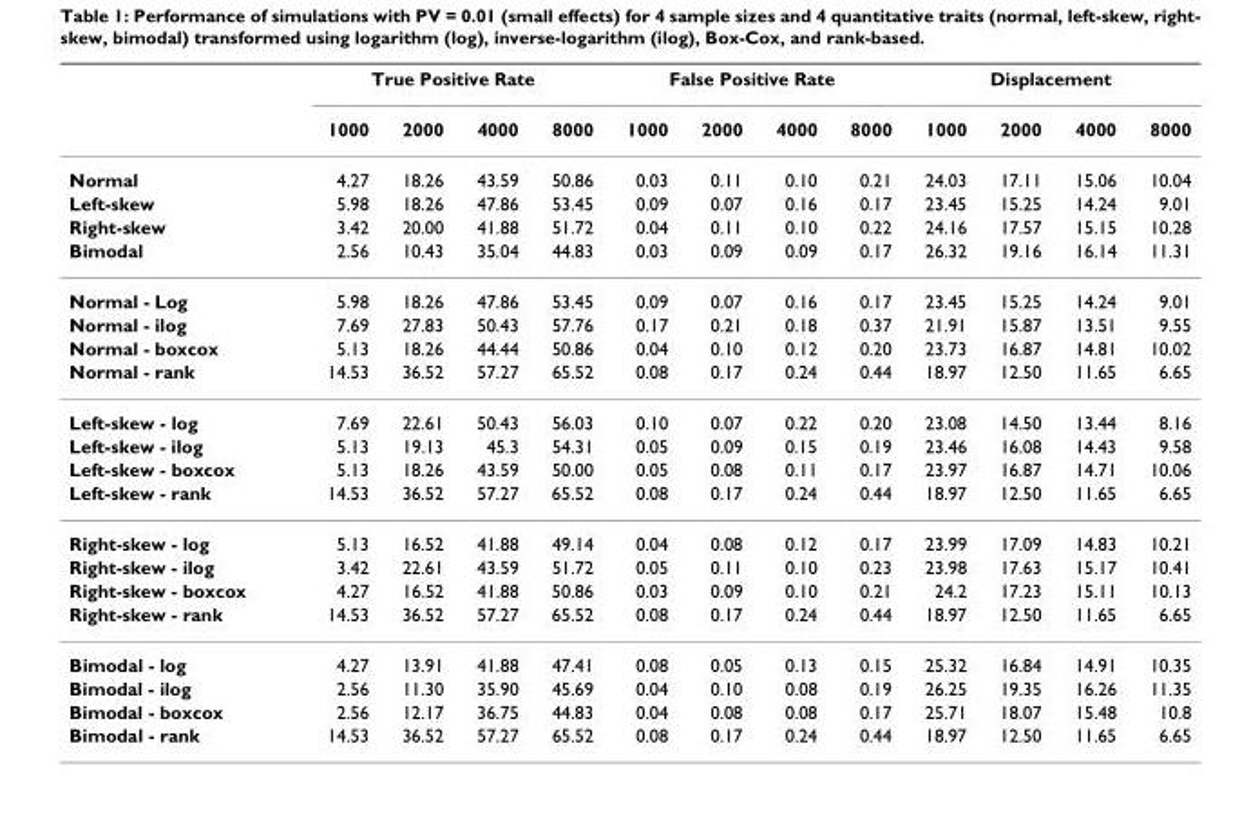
<table><thead><tr><td rowspan="2"></td><td colspan="4">True Positive Rate</td><td colspan="4">False Positive Rate</td><td colspan="4">Displacement</td></tr><tr><td>1000</td><td>2000</td><td>4000</td><td>8000</td><td>1000</td><td>2000</td><td>4000</td><td>8000</td><td>1000</td><td>2000</td><td>4000</td><td>8000</td></tr></thead><tbody><tr><td>Normal</td><td>4.27</td><td>18.26</td><td>43.59</td><td>50.86</td><td>0.03</td><td>0.11</td><td>0.10</td><td>0.21</td><td>24.03</td><td>17.11</td><td>15.06</td><td>10.04</td></tr><tr><td>Left-skew</td><td>5.98</td><td>18.26</td><td>47.86</td><td>53.45</td><td>0.09</td><td>0.07</td><td>0.16</td><td>0.17</td><td>23.45</td><td>15.25</td><td>14.24</td><td>9.01</td></tr><tr><td>Right-skew</td><td>3.42</td><td>20.00</td><td>41.88</td><td>51.72</td><td>0.04</td><td>0.11</td><td>0.10</td><td>0.22</td><td>24.16</td><td>17.57</td><td>15.15</td><td>10.28</td></tr><tr><td>Bimodal</td><td>2.56</td><td>10.43</td><td>35.04</td><td>44.83</td><td>0.03</td><td>0.09</td><td>0.09</td><td>0.17</td><td>26.32</td><td>19.16</td><td>16.14</td><td>11.31</td></tr><tr><td>Normal - Log</td><td>5.98</td><td>18.26</td><td>47.86</td><td>53.45</td><td>0.09</td><td>0.07</td><td>0.16</td><td>0.17</td><td>23.45</td><td>15.25</td><td>14.24</td><td>9.01</td></tr><tr><td>Normal - ilog</td><td>7.69</td><td>27.83</td><td>50.43</td><td>57.76</td><td>0.17</td><td>0.21</td><td>0.18</td><td>0.37</td><td>21.91</td><td>15.87</td><td>13.51</td><td>9.55</td></tr><tr><td>Normal - boxcox</td><td>5.13</td><td>18.26</td><td>44.44</td><td>50.86</td><td>0.04</td><td>0.10</td><td>0.12</td><td>0.20</td><td>23.73</td><td>16.87</td><td>14.81</td><td>10.02</td></tr><tr><td>Normal - rank</td><td>14.53</td><td>36.52</td><td>57.27</td><td>65.52</td><td>0.08</td><td>0.17</td><td>0.24</td><td>0.44</td><td>18.97</td><td>12.50</td><td>11.65</td><td>6.65</td></tr><tr><td>Left-skew - log</td><td>7.69</td><td>22.61</td><td>50.43</td><td>56.03</td><td>0.10</td><td>0.07</td><td>0.22</td><td>0.20</td><td>23.08</td><td>14.50</td><td>13.44</td><td>8.16</td></tr><tr><td>Left-skew - ilog</td><td>5.13</td><td>19.13</td><td>45.3</td><td>54.31</td><td>0.05</td><td>0.09</td><td>0.15</td><td>0.19</td><td>23.46</td><td>16.08</td><td>14.43</td><td>9.58</td></tr><tr><td>Left-skew - boxcox</td><td>5.13</td><td>18.26</td><td>43.59</td><td>50.00</td><td>0.05</td><td>0.08</td><td>0.11</td><td>0.17</td><td>23.97</td><td>16.87</td><td>14.71</td><td>10.06</td></tr><tr><td>Left-skew - rank</td><td>14.53</td><td>36.52</td><td>57.27</td><td>65.52</td><td>0.08</td><td>0.17</td><td>0.24</td><td>0.44</td><td>18.97</td><td>12.50</td><td>11.65</td><td>6.65</td></tr><tr><td>Right-skew - log</td><td>5.13</td><td>16.52</td><td>41.88</td><td>49.14</td><td>0.04</td><td>0.08</td><td>0.12</td><td>0.17</td><td>23.99</td><td>17.09</td><td>14.83</td><td>10.21</td></tr><tr><td>Right-skew - ilog</td><td>3.42</td><td>22.61</td><td>43.59</td><td>51.72</td><td>0.05</td><td>0.11</td><td>0.10</td><td>0.23</td><td>23.98</td><td>17.63</td><td>15.17</td><td>10.41</td></tr><tr><td>Right-skew - boxcox</td><td>4.27</td><td>16.52</td><td>41.88</td><td>50.86</td><td>0.03</td><td>0.09</td><td>0.10</td><td>0.21</td><td>24.2</td><td>17.23</td><td>15.11</td><td>10.13</td></tr><tr><td>Right-skew - rank</td><td>14.53</td><td>36.52</td><td>57.27</td><td>65.52</td><td>0.08</td><td>0.17</td><td>0.24</td><td>0.44</td><td>18.97</td><td>12.50</td><td>11.65</td><td>6.65</td></tr><tr><td>Bimodal - log</td><td>4.27</td><td>13.91</td><td>41.88</td><td>47.41</td><td>0.08</td><td>0.05</td><td>0.13</td><td>0.15</td><td>25.32</td><td>16.84</td><td>14.91</td><td>10.35</td></tr><tr><td>Bimodal - ilog</td><td>2.56</td><td>11.30</td><td>35.90</td><td>45.69</td><td>0.04</td><td>0.10</td><td>0.08</td><td>0.19</td><td>26.25</td><td>19.35</td><td>16.26</td><td>11.35</td></tr><tr><td>Bimodal - boxcox</td><td>2.56</td><td>12.17</td><td>36.75</td><td>44.83</td><td>0.04</td><td>0.08</td><td>0.08</td><td>0.17</td><td>25.71</td><td>18.07</td><td>15.48</td><td>10.8</td></tr><tr><td>Bimodal - rank</td><td>14.53</td><td>36.52</td><td>57.27</td><td>65.52</td><td>0.08</td><td>0.17</td><td>0.24</td><td>0.44</td><td>18.97</td><td>12.50</td><td>11.65</td><td>6.65</td></tr></tbody></table>